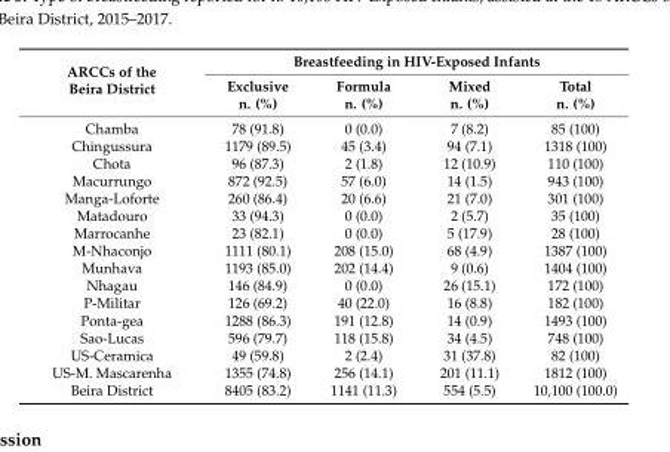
<table><thead><tr><td rowspan="2">ARCCs of the Beira District</td><td colspan="4">Breastfeeding in HIV-Exposed Infants</td></tr><tr><td>Exclusive n. (%)</td><td>Formula n. (%)</td><td>Mixed n. (%)</td><td>Total n. (%)</td></tr></thead><tbody><tr><td>Chamba</td><td>78 (91.8)</td><td>0 (0.0)</td><td>7 (8.2)</td><td>85 (100)</td></tr><tr><td>Chingussura</td><td>1179 (89.5)</td><td>45 (3.4)</td><td>94 (7.1)</td><td>1318 (100)</td></tr><tr><td>Chota</td><td>96 (87.3)</td><td>2 (1.8)</td><td>12 (10.9)</td><td>110 (100)</td></tr><tr><td>Macurrungo</td><td>872 (92.5)</td><td>57 (6.0)</td><td>14 (1.5)</td><td>943 (100)</td></tr><tr><td>Manga-Loforte</td><td>260 (86.4)</td><td>20 (6.6)</td><td>21 (7.0)</td><td>301 (100)</td></tr><tr><td>Matadouro</td><td>33 (94.3)</td><td>0 (0.0)</td><td>2 (5.7)</td><td>35 (100)</td></tr><tr><td>Marrocanhe</td><td>23 (82.1)</td><td>0 (0.0)</td><td>5 (17.9)</td><td>28 (100)</td></tr><tr><td>M-Nhaconjo</td><td>1111 (80.1)</td><td>208 (15.0)</td><td>68 (4.9)</td><td>1387 (100)</td></tr><tr><td>Munhava</td><td>1193 (85.0)</td><td>202 (14.4)</td><td>9 (0.6)</td><td>1404 (100)</td></tr><tr><td>Nhagau</td><td>146 (84.9)</td><td>0 (0.0)</td><td>26 (15.1)</td><td>172 (100)</td></tr><tr><td>P-Militar</td><td>126 (69.2)</td><td>40 (22.0)</td><td>16 (8.8)</td><td>182 (100)</td></tr><tr><td>Ponta-gea</td><td>1288 (86.3)</td><td>191 (12.8)</td><td>14 (0.9)</td><td>1493 (100)</td></tr><tr><td>Sao-Lucas</td><td>596 (79.7)</td><td>118 (15.8)</td><td>34 (4.5)</td><td>748 (100)</td></tr><tr><td>US-Ceramica</td><td>49 (59.8)</td><td>2 (2.4)</td><td>31 (37.8)</td><td>82 (100)</td></tr><tr><td>US-M. Mascarenha</td><td>1355 (74.8)</td><td>256 (14.1)</td><td>201 (11.1)</td><td>1812 (100)</td></tr><tr><td>Beira District</td><td>8405 (83.2)</td><td>1141 (11.3)</td><td>554 (5.5)</td><td>10,100 (100.0)</td></tr></tbody></table>